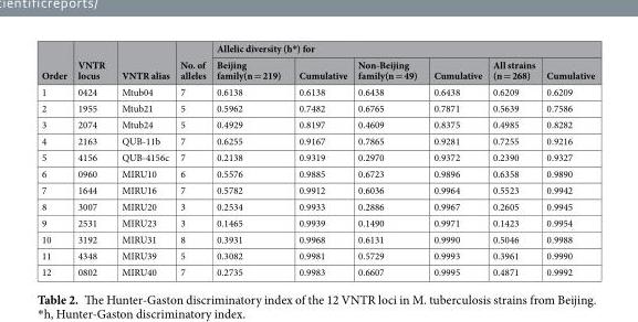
<table><thead><tr><td rowspan="2">Order</td><td rowspan="2">VNTR locus</td><td rowspan="2">VNTR alias</td><td rowspan="2">No. of alleles</td><td colspan="6">Allelic diversity (h*) for</td></tr><tr><td>Beijing family(n = 219)</td><td>Cumulative</td><td>Non-Beijing family(n = 49)</td><td>Cumulative</td><td>All strains (n = 268)</td><td>Cumulative</td></tr></thead><tbody><tr><td>1</td><td>0424</td><td>Mtub04</td><td>7</td><td>0.6138</td><td>0.6138</td><td>0.6438</td><td>0.6438</td><td>0.6209</td><td>0.6209</td></tr><tr><td>2</td><td>1955</td><td>Mtub21</td><td>5</td><td>0.5962</td><td>0.7482</td><td>0.6765</td><td>0.7871</td><td>0.5639</td><td>0.7586</td></tr><tr><td>3</td><td>2074</td><td>Mtub24</td><td>5</td><td>0.4929</td><td>0.8197</td><td>0.4609</td><td>0.8375</td><td>0.4985</td><td>0.8282</td></tr><tr><td>4</td><td>2163</td><td>QUB-11b</td><td>7</td><td>0.6255</td><td>0.9167</td><td>0.7865</td><td>0.9281</td><td>0.7255</td><td>0.9216</td></tr><tr><td>5</td><td>4156</td><td>QUB-4156c</td><td>7</td><td>0.2138</td><td>0.9319</td><td>0.2970</td><td>0.9372</td><td>0.2390</td><td>0.9327</td></tr><tr><td>6</td><td>0960</td><td>MIRU10</td><td>6</td><td>0.5576</td><td>0.9885</td><td>0.6723</td><td>0.9896</td><td>0.6358</td><td>0.9890</td></tr><tr><td>7</td><td>1644</td><td>MIRU16</td><td>7</td><td>0.5782</td><td>0.9912</td><td>0.6036</td><td>0.9964</td><td>0.5523</td><td>0.9942</td></tr><tr><td>8</td><td>3007</td><td>MIRU20</td><td>3</td><td>0.2534</td><td>0.9933</td><td>0.2886</td><td>0.9967</td><td>0.2605</td><td>0.9945</td></tr><tr><td>9</td><td>2531</td><td>MIRU23</td><td>3</td><td>0.1465</td><td>0.9939</td><td>0.1490</td><td>0.9971</td><td>0.1423</td><td>0.9954</td></tr><tr><td>10</td><td>3192</td><td>MIRU31</td><td>8</td><td>0.3931</td><td>0.9968</td><td>0.6131</td><td>0.9990</td><td>0.5046</td><td>0.9988</td></tr><tr><td>11</td><td>4348</td><td>MIRU39</td><td>5</td><td>0.3082</td><td>0.9981</td><td>0.5729</td><td>0.9993</td><td>0.3961</td><td>0.9990</td></tr><tr><td>12</td><td>0802</td><td>MIRU40</td><td>7</td><td>0.2735</td><td>0.9983</td><td>0.6607</td><td>0.9995</td><td>0.4871</td><td>0.9992</td></tr></tbody></table>